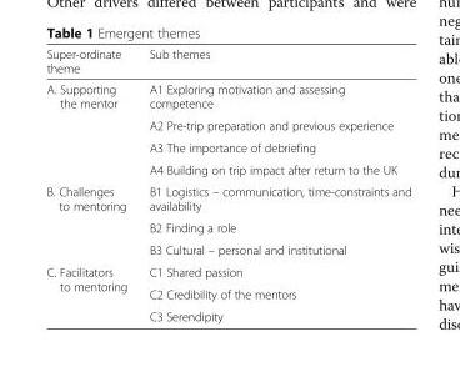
<table><thead><tr><td>Super-ordinate theme</td><td>Sub themes</td></tr></thead><tbody><tr><td rowspan="4">A. Supporting the mentor</td><td>A1 Exploring motivation and assessing competence</td></tr><tr><td>A2 Pre-trip preparation and previous experience</td></tr><tr><td>A3 The importance of debriefing</td></tr><tr><td>A4 Building on trip impact after return to the UK</td></tr><tr><td rowspan="3">B. Challenges to mentoring</td><td>B1 Logistics – communication, time-constraints and availability</td></tr><tr><td>B2 Finding a role</td></tr><tr><td>B3 Cultural – personal and institutional</td></tr><tr><td rowspan="3">C. Facilitators to mentoring</td><td>C1 Shared passion</td></tr><tr><td>C2 Credibility of the mentors</td></tr><tr><td>C3 Serendipity</td></tr></tbody></table>